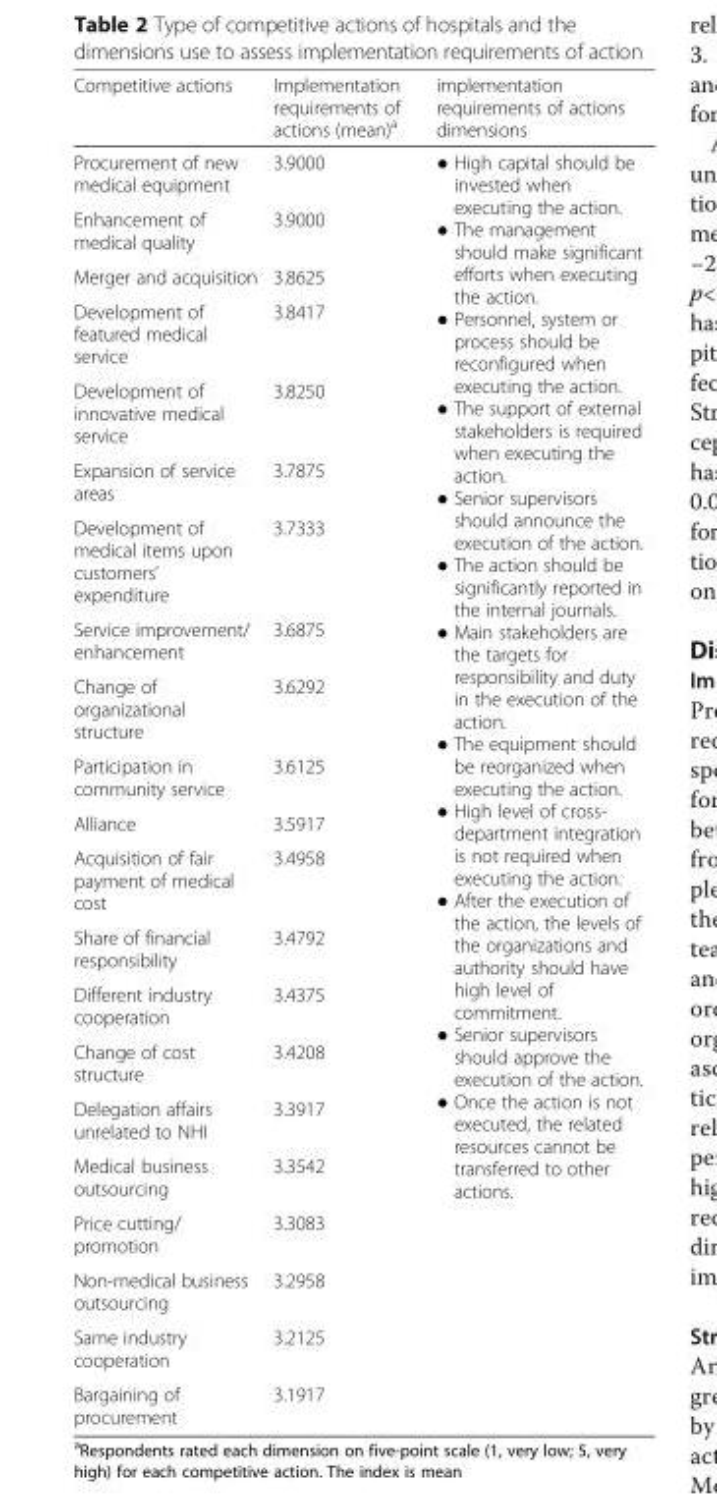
<table><thead><tr><td>Competitive actions</td><td>Implementation requirements of actions (mean)<sup>a</sup></td><td>implementation requirements of actions dimensions</td></tr></thead><tbody><tr><td>Procurement of new medical equipment</td><td>3.9000</td><td rowspan="21">● High capital should be invested when executing the action. ● The management should make significant efforts when executing the action. ● Personnel, system or process should be reconfigured when executing the action. ● The support of external stakeholders is required when executing the action. ● Senior supervisors should announce the execution of the action. ● The action should be significantly reported in the internal journals. ● Main stakeholders are the targets for responsibility and duty in the execution of the action. ● The equipment should be reorganized when executing the action. ● High level of cross- department integration is not required when executing the action. ● After the execution of the action, the levels of the organizations and authority should have high level of commitment. ● Senior supervisors should approve the execution of the action. ● Once the action is not executed, the related resources cannot be transferred to other actions.</td></tr><tr><td>Enhancement of medical quality</td><td>3.9000</td></tr><tr><td>Merger and acquisition</td><td>3.8625</td></tr><tr><td>Development of featured medical service</td><td>3.8417</td></tr><tr><td>Development of innovative medical service</td><td>3.8250</td></tr><tr><td>Expansion of service areas</td><td>3.7875</td></tr><tr><td>Development of medical items upon customers’ expenditure</td><td>3.7333</td></tr><tr><td>Service improvement/ enhancement</td><td>3.6875</td></tr><tr><td>Change of organizational structure</td><td>3.6292</td></tr><tr><td>Participation in community service</td><td>3.6125</td></tr><tr><td>Alliance</td><td>3.5917</td></tr><tr><td>Acquisition of fair payment of medical cost</td><td>3.4958</td></tr><tr><td>Share of financial responsibility</td><td>3.4792</td></tr><tr><td>Different industry cooperation</td><td>3.4375</td></tr><tr><td>Change of cost structure</td><td>3.4208</td></tr><tr><td>Delegation affairs unrelated to NHI</td><td>3.3917</td></tr><tr><td>Medical business outsourcing</td><td>3.3542</td></tr><tr><td>Price cutting/ promotion</td><td>3.3083</td></tr><tr><td>Non-medical business outsourcing</td><td>3.2958</td></tr><tr><td>Same industry cooperation</td><td>3.2125</td></tr><tr><td>Bargaining of procurement</td><td>3.1917</td></tr></tbody></table>